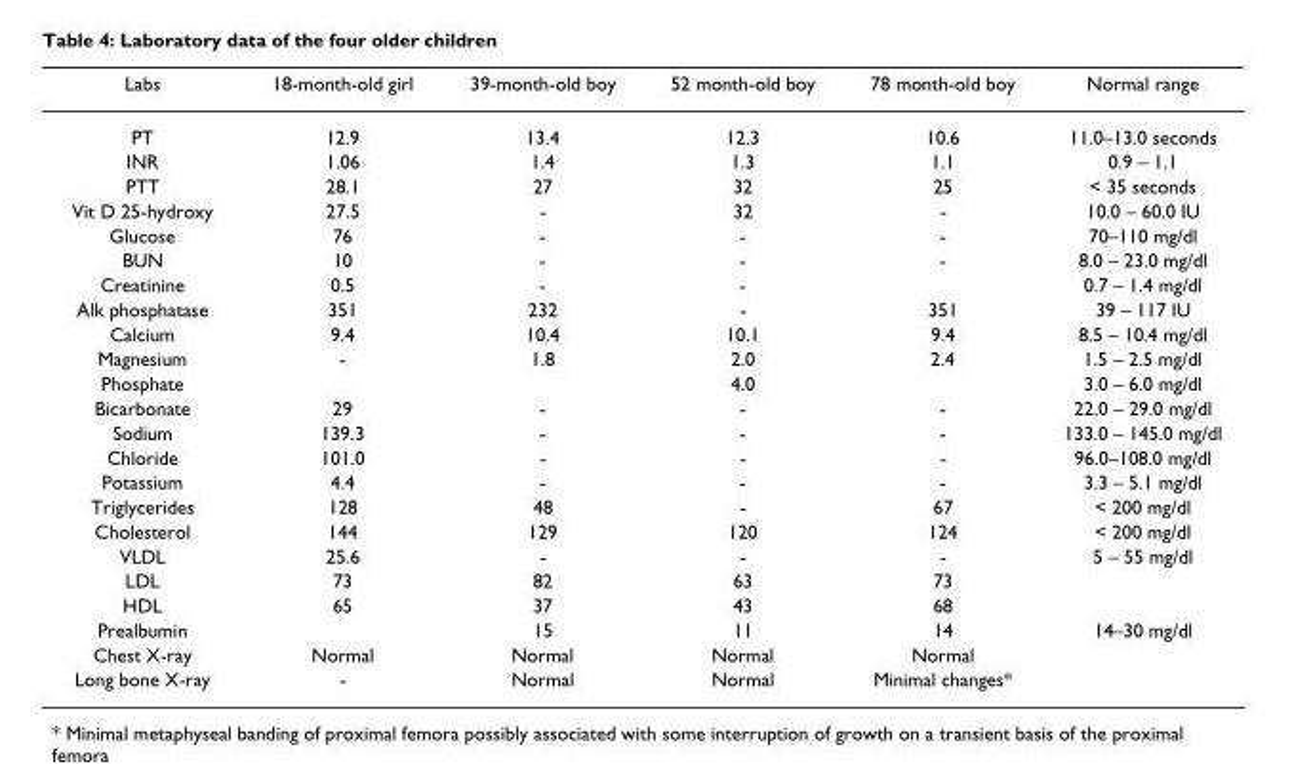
<table><thead><tr><td>Labs</td><td>18-month-old girl</td><td>39-month-old boy</td><td>52 month-old boy</td><td>78 month-old boy</td><td>Normal range</td></tr></thead><tbody><tr><td>PT</td><td>12.9</td><td>13.4</td><td>12.3</td><td>10.6</td><td>11.0–13.0 seconds</td></tr><tr><td>INR</td><td>1.06</td><td>1.4</td><td>1.3</td><td>1.1</td><td>0.9 – 1.1</td></tr><tr><td>PTT</td><td>28.1</td><td>27</td><td>32</td><td>25</td><td>&lt; 35 seconds</td></tr><tr><td>Vit D 25-hydroxy</td><td>27.5</td><td>-</td><td>32</td><td>-</td><td>10.0 – 60.0 IU</td></tr><tr><td>Glucose</td><td>76</td><td>-</td><td>-</td><td>-</td><td>70–110 mg/dl</td></tr><tr><td>BUN</td><td>10</td><td>-</td><td>-</td><td>-</td><td>8.0 – 23.0 mg/dl</td></tr><tr><td>Creatinine</td><td>0.5</td><td>-</td><td>-</td><td></td><td>0.7 – 1.4 mg/dl</td></tr><tr><td>Alk phosphatase</td><td>351</td><td>232</td><td>-</td><td>351</td><td>39 – 117 IU</td></tr><tr><td>Calcium</td><td>9.4</td><td>10.4</td><td>10.1</td><td>9.4</td><td>8.5 – 10.4 mg/dl</td></tr><tr><td>Magnesium</td><td>-</td><td>1.8</td><td>2.0</td><td>2.4</td><td>1.5 – 2.5 mg/dl</td></tr><tr><td>Phosphate</td><td></td><td></td><td>4.0</td><td></td><td>3.0 – 6.0 mg/dl</td></tr><tr><td>Bicarbonate</td><td>29</td><td>-</td><td>-</td><td>-</td><td>22.0 – 29.0 mg/dl</td></tr><tr><td>Sodium</td><td>139.3</td><td>-</td><td>-</td><td>-</td><td>133.0 – 145.0 mg/dl</td></tr><tr><td>Chloride</td><td>101.0</td><td>-</td><td>-</td><td>-</td><td>96.0–108.0 mg/dl</td></tr><tr><td>Potassium</td><td>4.4</td><td>-</td><td>-</td><td>-</td><td>3.3 – 5.1 mg/dl</td></tr><tr><td>Triglycerides</td><td>128</td><td>48</td><td>-</td><td>67</td><td>&lt; 200 mg/dl</td></tr><tr><td>Cholesterol</td><td>144</td><td>129</td><td>120</td><td>124</td><td>&lt; 200 mg/dl</td></tr><tr><td>VLDL</td><td>25.6</td><td>-</td><td>-</td><td>-</td><td>5 – 55 mg/dl</td></tr><tr><td>LDL</td><td>73</td><td>82</td><td>63</td><td>73</td><td></td></tr><tr><td>HDL</td><td>65</td><td>37</td><td>43</td><td>68</td><td></td></tr><tr><td>Prealbumin</td><td></td><td>15</td><td>11</td><td>14</td><td>14–30 mg/dl</td></tr><tr><td>Chest X-ray</td><td>Normal</td><td>Normal</td><td>Normal</td><td>Normal</td><td></td></tr><tr><td>Long bone X-ray</td><td>-</td><td>Normal</td><td>Normal</td><td>Minimal changes*</td><td></td></tr></tbody></table>